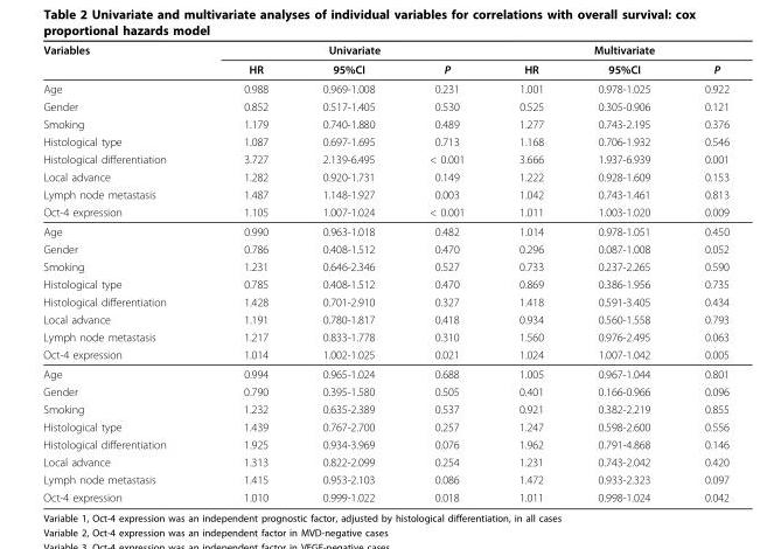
<table><thead><tr><td rowspan="2">Variables</td><td colspan="3">Univariate</td><td colspan="3">Multivariate</td></tr><tr><td>HR</td><td>95%CI</td><td>P</td><td>HR</td><td>95%CI</td><td>P</td></tr></thead><tbody><tr><td>Age</td><td>0.988</td><td>0.969-1.008</td><td>0.231</td><td>1.001</td><td>0.978-1.025</td><td>0.922</td></tr><tr><td>Gender</td><td>0.852</td><td>0.517-1.405</td><td>0.530</td><td>0.525</td><td>0.305-0.906</td><td>0.121</td></tr><tr><td>Smoking</td><td>1.179</td><td>0.740-1.880</td><td>0.489</td><td>1.277</td><td>0.743-2.195</td><td>0.376</td></tr><tr><td>Histological type</td><td>1.087</td><td>0.697-1.695</td><td>0.713</td><td>1.168</td><td>0.706-1.932</td><td>0.546</td></tr><tr><td>Histological differentiation</td><td>3.727</td><td>2.139-6.495</td><td>&lt; 0.001</td><td>3.666</td><td>1.937-6.939</td><td>0.001</td></tr><tr><td>Local advance</td><td>1.282</td><td>0.920-1.731</td><td>0.149</td><td>1.222</td><td>0.928-1.609</td><td>0.153</td></tr><tr><td>Lymph node metastasis</td><td>1.487</td><td>1.148-1.927</td><td>0.003</td><td>1.042</td><td>0.743-1.461</td><td>0.813</td></tr><tr><td>Oct-4 expression</td><td>1.105</td><td>1.007-1.024</td><td>&lt; 0.001</td><td>1.011</td><td>1.003-1.020</td><td>0.009</td></tr><tr><td>Age</td><td>0.990</td><td>0.963-1.018</td><td>0.482</td><td>1.014</td><td>0.978-1.051</td><td>0.450</td></tr><tr><td>Gender</td><td>0.786</td><td>0.408-1.512</td><td>0.470</td><td>0.296</td><td>0.087-1.008</td><td>0.052</td></tr><tr><td>Smoking</td><td>1.231</td><td>0.646-2.346</td><td>0.527</td><td>0.733</td><td>0.237-2.265</td><td>0.590</td></tr><tr><td>Histological type</td><td>0.785</td><td>0.408-1.512</td><td>0.470</td><td>0.869</td><td>0.386-1.956</td><td>0.735</td></tr><tr><td>Histological differentiation</td><td>1.428</td><td>0.701-2.910</td><td>0.327</td><td>1.418</td><td>0.591-3.405</td><td>0.434</td></tr><tr><td>Local advance</td><td>1.191</td><td>0.780-1.817</td><td>0.418</td><td>0.934</td><td>0.560-1.558</td><td>0.793</td></tr><tr><td>Lymph node metastasis</td><td>1.217</td><td>0.833-1.778</td><td>0.310</td><td>1.560</td><td>0.976-2.495</td><td>0.063</td></tr><tr><td>Oct-4 expression</td><td>1.014</td><td>1.002-1.025</td><td>0.021</td><td>1.024</td><td>1.007-1.042</td><td>0.005</td></tr><tr><td>Age</td><td>0.994</td><td>0.965-1.024</td><td>0.688</td><td>1.005</td><td>0.967-1.044</td><td>0.801</td></tr><tr><td>Gender</td><td>0.790</td><td>0.395-1.580</td><td>0.505</td><td>0.401</td><td>0.166-0.966</td><td>0.096</td></tr><tr><td>Smoking</td><td>1.232</td><td>0.635-2.389</td><td>0.537</td><td>0.921</td><td>0.382-2.219</td><td>0.855</td></tr><tr><td>Histological type</td><td>1.439</td><td>0.767-2.700</td><td>0.257</td><td>1.247</td><td>0.598-2.600</td><td>0.556</td></tr><tr><td>Histological differentiation</td><td>1.925</td><td>0.934-3.969</td><td>0.076</td><td>1.962</td><td>0.791-4.868</td><td>0.146</td></tr><tr><td>Local advance</td><td>1.313</td><td>0.822-2.099</td><td>0.254</td><td>1.231</td><td>0.743-2.042</td><td>0.420</td></tr><tr><td>Lymph node metastasis</td><td>1.415</td><td>0.953-2.103</td><td>0.086</td><td>1.472</td><td>0.933-2.323</td><td>0.097</td></tr><tr><td>Oct-4 expression</td><td>1.010</td><td>0.999-1.022</td><td>0.018</td><td>1.011</td><td>0.998-1.024</td><td>0.042</td></tr></tbody></table>